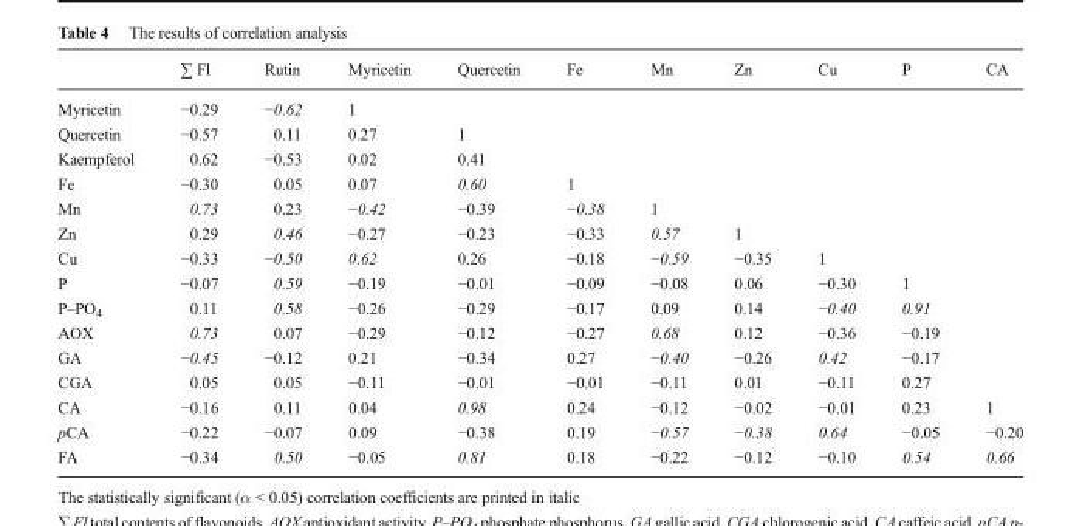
<table><thead><tr><td></td><td>∑ Fl</td><td>Rutin</td><td>Myricetin</td><td>Quercetin</td><td>Fe</td><td>Mn</td><td>Zn</td><td>Cu</td><td>P</td><td>CA</td></tr></thead><tbody><tr><td>Myricetin</td><td>−0.29</td><td>−0.62</td><td>1</td><td></td><td></td><td></td><td></td><td></td><td></td><td></td></tr><tr><td>Quercetin</td><td>−0.57</td><td>0.11</td><td>0.27</td><td>1</td><td></td><td></td><td></td><td></td><td></td><td></td></tr><tr><td>Kaempferol</td><td>0.62</td><td>−0.53</td><td>0.02</td><td>0.41</td><td></td><td></td><td></td><td></td><td></td><td></td></tr><tr><td>Fe</td><td>−0.30</td><td>0.05</td><td>0.07</td><td>0.60</td><td>1</td><td></td><td></td><td></td><td></td><td></td></tr><tr><td>Mn</td><td>0.73</td><td>0.23</td><td>−0.42</td><td>−0.39</td><td>−0.38</td><td>1</td><td></td><td></td><td></td><td></td></tr><tr><td>Zn</td><td>0.29</td><td>0.46</td><td>−0.27</td><td>−0.23</td><td>−0.33</td><td>0.57</td><td>1</td><td></td><td></td><td></td></tr><tr><td>Cu</td><td>−0.33</td><td>−0.50</td><td>0.62</td><td>0.26</td><td>−0.18</td><td>−0.59</td><td>−0.35</td><td>1</td><td></td><td></td></tr><tr><td>P</td><td>−0.07</td><td>0.59</td><td>−0.19</td><td>−0.01</td><td>−0.09</td><td>−0.08</td><td>0.06</td><td>−0.30</td><td>1</td><td></td></tr><tr><td>P–PO<sub>4</sub></td><td>0.11</td><td>0.58</td><td>−0.26</td><td>−0.29</td><td>−0.17</td><td>0.09</td><td>0.14</td><td>−0.40</td><td>0.91</td><td></td></tr><tr><td>AOX</td><td>0.73</td><td>0.07</td><td>−0.29</td><td>−0.12</td><td>−0.27</td><td>0.68</td><td>0.12</td><td>−0.36</td><td>−0.19</td><td></td></tr><tr><td>GA</td><td>−0.45</td><td>−0.12</td><td>0.21</td><td>−0.34</td><td>0.27</td><td>−0.40</td><td>−0.26</td><td>0.42</td><td>−0.17</td><td></td></tr><tr><td>CGA</td><td>0.05</td><td>0.05</td><td>−0.11</td><td>−0.01</td><td>−0.01</td><td>−0.11</td><td>0.01</td><td>−0.11</td><td>0.27</td><td></td></tr><tr><td>CA</td><td>−0.16</td><td>0.11</td><td>0.04</td><td>0.98</td><td>0.24</td><td>−0.12</td><td>−0.02</td><td>−0.01</td><td>0.23</td><td>1</td></tr><tr><td>pCA</td><td>−0.22</td><td>−0.07</td><td>0.09</td><td>−0.38</td><td>0.19</td><td>−0.57</td><td>−0.38</td><td>0.64</td><td>−0.05</td><td>−0.20</td></tr><tr><td>FA</td><td>−0.34</td><td>0.50</td><td>−0.05</td><td>0.81</td><td>0.18</td><td>−0.22</td><td>−0.12</td><td>−0.10</td><td>0.54</td><td>0.66</td></tr></tbody></table>